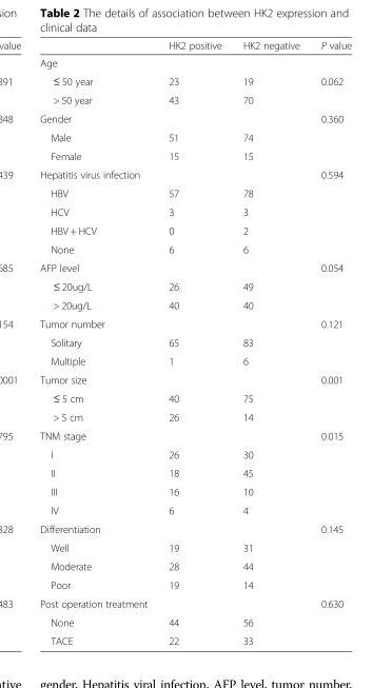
<table><thead><tr><td></td><td>HK2 positive</td><td>HK2 negative</td><td>P value</td></tr></thead><tbody><tr><td colspan="4">Age</td></tr><tr><td>≤ 50 year</td><td>23</td><td>19</td><td>0.062</td></tr><tr><td>&gt; 50 year</td><td>43</td><td>70</td><td></td></tr><tr><td>Gender</td><td></td><td></td><td>0.360</td></tr><tr><td>Male</td><td>51</td><td>74</td><td></td></tr><tr><td>Female</td><td>15</td><td>15</td><td></td></tr><tr><td>Hepatitis virus infection</td><td></td><td></td><td>0.594</td></tr><tr><td>HBV</td><td>57</td><td>78</td><td></td></tr><tr><td>HCV</td><td>3</td><td>3</td><td></td></tr><tr><td>HBV + HCV</td><td>0</td><td>2</td><td></td></tr><tr><td>None</td><td>6</td><td>6</td><td></td></tr><tr><td>AFP level</td><td></td><td></td><td>0.054</td></tr><tr><td>≤ 20ug/L</td><td>26</td><td>49</td><td></td></tr><tr><td>&gt; 20ug/L</td><td>40</td><td>40</td><td></td></tr><tr><td>Tumor number</td><td></td><td></td><td>0.121</td></tr><tr><td>Solitary</td><td>65</td><td>83</td><td></td></tr><tr><td>Multiple</td><td>1</td><td>6</td><td></td></tr><tr><td>Tumor size</td><td></td><td></td><td>0.001</td></tr><tr><td>≤ 5 cm</td><td>40</td><td>75</td><td></td></tr><tr><td>&gt; 5 cm</td><td>26</td><td>14</td><td></td></tr><tr><td>TNM stage</td><td></td><td></td><td>0.015</td></tr><tr><td>I</td><td>26</td><td>30</td><td></td></tr><tr><td>II</td><td>18</td><td>45</td><td></td></tr><tr><td>III</td><td>16</td><td>10</td><td></td></tr><tr><td>IV</td><td>6</td><td>4</td><td></td></tr><tr><td>Differentiation</td><td></td><td></td><td>0.145</td></tr><tr><td>Well</td><td>19</td><td>31</td><td></td></tr><tr><td>Moderate</td><td>28</td><td>44</td><td></td></tr><tr><td>Poor</td><td>19</td><td>14</td><td></td></tr><tr><td>Post operation treatment</td><td></td><td></td><td>0.630</td></tr><tr><td>None</td><td>44</td><td>56</td><td></td></tr><tr><td>TACE</td><td>22</td><td>33</td><td></td></tr></tbody></table>